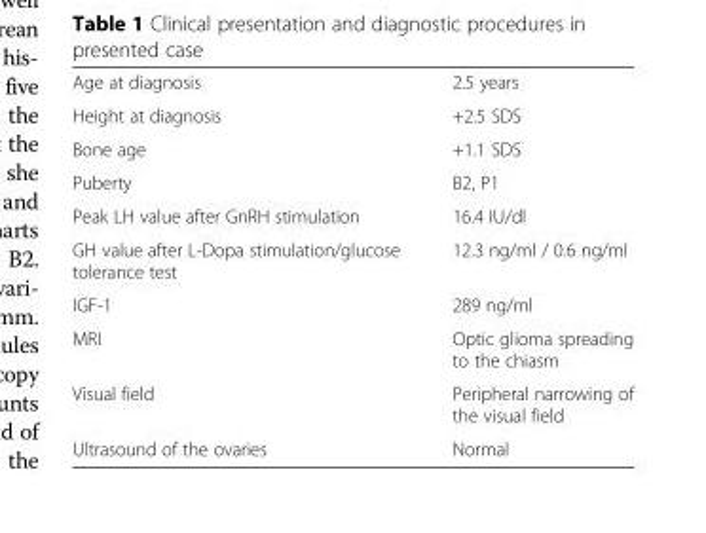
<table><tbody><tr><td>Age at diagnosis</td><td>2.5 years</td></tr><tr><td>Height at diagnosis</td><td>+2.5 SDS</td></tr><tr><td>Bone age</td><td>+1.1 SDS</td></tr><tr><td>Puberty</td><td>B2, P1</td></tr><tr><td>Peak LH value after GnRH stimulation</td><td>16.4 IU/dl</td></tr><tr><td>GH value after L-Dopa stimulation/glucose tolerance test</td><td>12.3 ng/ml / 0.6 ng/ml</td></tr><tr><td>IGF-1</td><td>289 ng/ml</td></tr><tr><td>MRI</td><td>Optic glioma spreading to the chiasm</td></tr><tr><td>Visual field</td><td>Peripheral narrowing of the visual field</td></tr><tr><td>Ultrasound of the ovaries</td><td>Normal</td></tr></tbody></table>